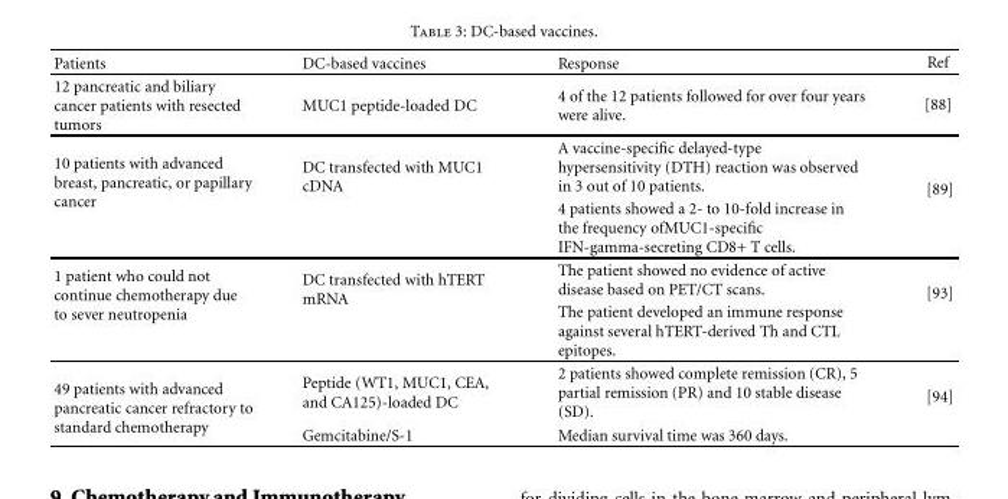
<table><thead><tr><td>Patients</td><td>DC-based vaccines</td><td>Response</td><td>Ref</td></tr></thead><tbody><tr><td>12 pancreatic and biliary cancer patients with resected tumors</td><td>MUC1 peptide-loaded DC</td><td>4 of the 12 patients followed for over four years were alive.</td><td>[88]</td></tr><tr><td rowspan="2">10 patients with advanced breast, pancreatic, or papillary cancer</td><td rowspan="2">DC transfected with MUC1 cDNA</td><td>A vaccine-specific delayed-type hypersensitivity (DTH) reaction was observed in 3 out of 10 patients.</td><td rowspan="2">[89]</td></tr><tr><td>4 patients showed a 2- to 10-fold increase in the frequency ofMUC1-specific IFN-gamma-secreting CD8+ T cells.</td></tr><tr><td rowspan="2">1 patient who could not continue chemotherapy due to sever neutropenia</td><td rowspan="2">DC transfected with hTERT mRNA</td><td>The patient showed no evidence of active disease based on PET/CT scans.</td><td rowspan="2">[93]</td></tr><tr><td>The patient developed an immune response against several hTERT-derived Th and CTL epitopes.</td></tr><tr><td rowspan="2">49 patients with advanced pancreatic cancer refractory to standard chemotherapy</td><td>Peptide (WT1, MUC1, CEA, and CA125)-loaded DC</td><td>2 patients showed complete remission (CR), 5 partial remission (PR) and 10 stable disease (SD).</td><td rowspan="2">[94]</td></tr><tr><td>Gemcitabine/S-1</td><td>Median survival time was 360 days.</td></tr></tbody></table>